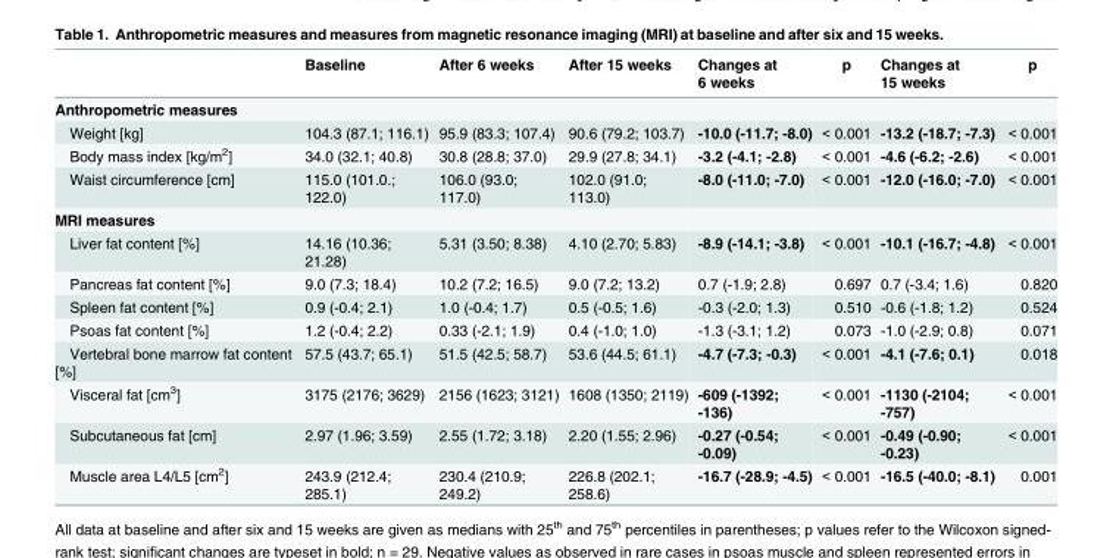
<table><thead><tr><td></td><td>Baseline</td><td>After 6 weeks</td><td>After 15 weeks</td><td>Changes at 6 weeks</td><td>p</td><td>Changes at 15 weeks</td><td>p</td></tr></thead><tbody><tr><td colspan="8">Anthropometric measures</td></tr><tr><td>Weight [kg]</td><td>104.3 (87.1; 116.1)</td><td>95.9 (83.3; 107.4)</td><td>90.6 (79.2; 103.7)</td><td>-10.0 (-11.7; -8.0)</td><td>&lt; 0.001</td><td>-13.2 (-18.7; -7.3)</td><td>&lt; 0.001</td></tr><tr><td>Body mass index [kg/m<sup>2</sup>]</td><td>34.0 (32.1; 40.8)</td><td>30.8 (28.8; 37.0)</td><td>29.9 (27.8; 34.1)</td><td>-3.2 (-4.1; -2.8)</td><td>&lt; 0.001</td><td>-4.6 (-6.2; -2.6)</td><td>&lt; 0.001</td></tr><tr><td>Waist circumference [cm]</td><td>115.0 (101.0.; 122.0)</td><td>106.0 (93.0; 117.0)</td><td>102.0 (91.0; 113.0)</td><td>-8.0 (-11.0; -7.0)</td><td>&lt; 0.001</td><td>-12.0 (-16.0; -7.0)</td><td>&lt; 0.001</td></tr><tr><td colspan="8">MRI measures</td></tr><tr><td>Liver fat content [%]</td><td>14.16 (10.36; 21.28)</td><td>5.31 (3.50; 8.38)</td><td>4.10 (2.70; 5.83)</td><td>-8.9 (-14.1; -3.8)</td><td>&lt; 0.001</td><td>-10.1 (-16.7; -4.8)</td><td>&lt; 0.001</td></tr><tr><td>Pancreas fat content [%]</td><td>9.0 (7.3; 18.4)</td><td>10.2 (7.2; 16.5)</td><td>9.0 (7.2; 13.2)</td><td>0.7 (-1.9; 2.8)</td><td>0.697</td><td>0.7 (-3.4; 1.6)</td><td>0.820</td></tr><tr><td>Spleen fat content [%]</td><td>0.9 (-0.4; 2.1)</td><td>1.0 (-0.4; 1.7)</td><td>0.5 (-0.5; 1.6)</td><td>-0.3 (-2.0; 1.3)</td><td>0.510</td><td>-0.6 (-1.8; 1.2)</td><td>0.524</td></tr><tr><td>Psoas fat content [%]</td><td>1.2 (-0.4; 2.2)</td><td>0.33 (-2.1; 1.9)</td><td>0.4 (-1.0; 1.0)</td><td>-1.3 (-3.1; 1.2)</td><td>0.073</td><td>-1.0 (-2.9; 0.8)</td><td>0.071</td></tr><tr><td>Vertebral bone marrow fat content [%]</td><td>57.5 (43.7; 65.1)</td><td>51.5 (42.5; 58.7)</td><td>53.6 (44.5; 61.1)</td><td>-4.7 (-7.3; -0.3)</td><td>&lt; 0.001</td><td>-4.1 (-7.6; 0.1)</td><td>0.018</td></tr><tr><td>Visceral fat [cm<sup>3</sup>]</td><td>3175 (2176; 3629)</td><td>2156 (1623; 3121)</td><td>1608 (1350; 2119)</td><td>-609 (-1392; -136)</td><td>&lt; 0.001</td><td>-1130 (-2104; -757)</td><td>&lt; 0.001</td></tr><tr><td>Subcutaneous fat [cm]</td><td>2.97 (1.96; 3.59)</td><td>2.55 (1.72; 3.18)</td><td>2.20 (1.55; 2.96)</td><td>-0.27 (-0.54; -0.09)</td><td>&lt; 0.001</td><td>-0.49 (-0.90; -0.23)</td><td>&lt; 0.001</td></tr><tr><td>Muscle area L4/L5 [cm<sup>2</sup>]</td><td>243.9 (212.4; 285.1)</td><td>230.4 (210.9; 249.2)</td><td>226.8 (202.1; 258.6)</td><td>-16.7 (-28.9; -4.5)</td><td>&lt; 0.001</td><td>-16.5 (-40.0; -8.1)</td><td>0.001</td></tr></tbody></table>